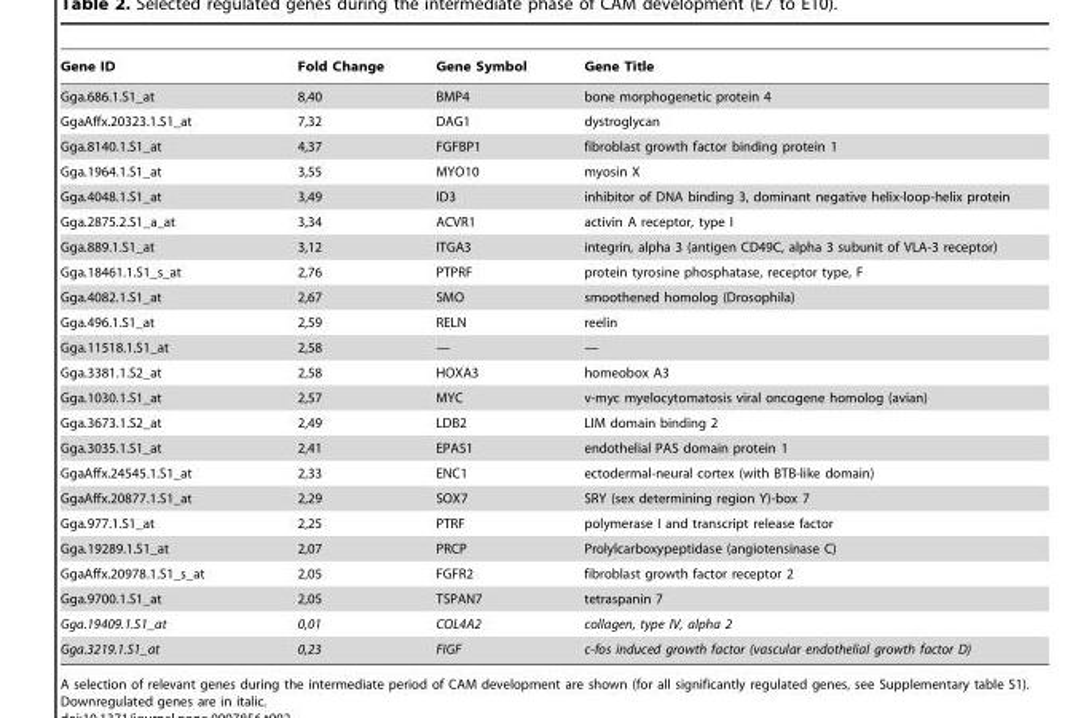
<table><thead><tr><td>Gene ID</td><td>Fold Change</td><td>Gene Symbol</td><td>Gene Title</td></tr></thead><tbody><tr><td>Gga.686.1.S1_at</td><td>8,40</td><td>BMP4</td><td>bone morphogenetic protein 4</td></tr><tr><td>GgaAffx.20323.1.S1_at</td><td>7,32</td><td>DAG1</td><td>dystroglycan</td></tr><tr><td>Gga.8140.1.S1_at</td><td>4,37</td><td>FGFBP1</td><td>fibroblast growth factor binding protein 1</td></tr><tr><td>Gga.1964.1.S1_at</td><td>3,55</td><td>MYO10</td><td>myosin X</td></tr><tr><td>Gga.4048.1.S1_at</td><td>3,49</td><td>ID3</td><td>inhibitor of DNA binding 3, dominant negative helix-loop-helix protein</td></tr><tr><td>Gga.2875.2.S1_a_at</td><td>3,34</td><td>ACVR1</td><td>activin A receptor, type I</td></tr><tr><td>Gga.889.1.S1_at</td><td>3,12</td><td>ITGA3</td><td>integrin, alpha 3 (antigen CD49C, alpha 3 subunit of VLA-3 receptor)</td></tr><tr><td>Gga.18461.1.S1_s_at</td><td>2,76</td><td>PTPRF</td><td>protein tyrosine phosphatase, receptor type, F</td></tr><tr><td>Gga.4082.1.S1_at</td><td>2,67</td><td>SMO</td><td>smoothened homolog (Drosophila)</td></tr><tr><td>Gga.496.1.S1_at</td><td>2,59</td><td>RELN</td><td>reelin</td></tr><tr><td>Gga.11518.1.S1_at</td><td>2,58</td><td>—</td><td>—</td></tr><tr><td>Gga.3381.1.S2_at</td><td>2,58</td><td>HOXA3</td><td>homeobox A3</td></tr><tr><td>Gga.1030.1.S1_at</td><td>2,57</td><td>MYC</td><td>v-myc myelocytomatosis viral oncogene homolog (avian)</td></tr><tr><td>Gga.3673.1.S2_at</td><td>2,49</td><td>LDB2</td><td>LIM domain binding 2</td></tr><tr><td>Gga.3035.1.S1_at</td><td>2,41</td><td>EPAS1</td><td>endothelial PAS domain protein 1</td></tr><tr><td>GgaAffx.24545.1.S1_at</td><td>2,33</td><td>ENC1</td><td>ectodermal-neural cortex (with BTB-like domain)</td></tr><tr><td>GgaAffx.20877.1.S1_at</td><td>2,29</td><td>SOX7</td><td>SRY (sex determining region Y)-box 7</td></tr><tr><td>Gga.977.1.S1_at</td><td>2,25</td><td>PTRF</td><td>polymerase I and transcript release factor</td></tr><tr><td>Gga.19289.1.S1_at</td><td>2,07</td><td>PRCP</td><td>Prolylcarboxypeptidase (angiotensinase C)</td></tr><tr><td>GgaAffx.20978.1.S1_s_at</td><td>2,05</td><td>FGFR2</td><td>fibroblast growth factor receptor 2</td></tr><tr><td>Gga.9700.1.S1_at</td><td>2,05</td><td>TSPAN7</td><td>tetraspanin 7</td></tr><tr><td>Gga.19409.1.S1_at</td><td>0,01</td><td>COL4A2</td><td>collagen, type IV, alpha 2</td></tr><tr><td>Gga.3219.1.S1_at</td><td>0,23</td><td>FIGF</td><td>c-fos induced growth factor (vascular endothelial growth factor D)</td></tr></tbody></table>